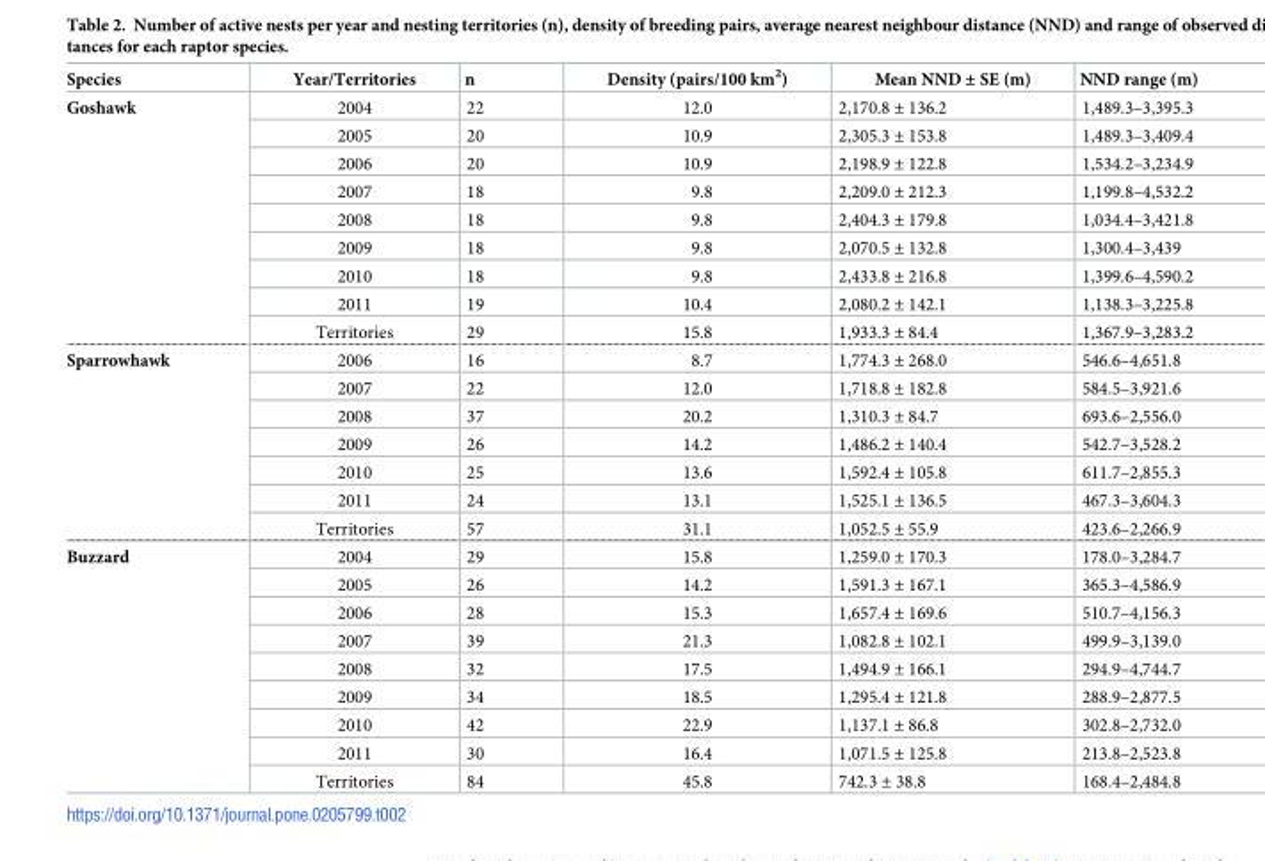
<table><thead><tr><td>Species</td><td>Year/Territories</td><td>n</td><td>Density (pairs/100 km<sup>2</sup>)</td><td>Mean NND ± SE (m)</td><td>NND range (m)</td></tr></thead><tbody><tr><td rowspan="9">Goshawk</td><td>2004</td><td>22</td><td>12.0</td><td>2,170.8 ± 136.2</td><td>1,489.3–3,395.3</td></tr><tr><td>2005</td><td>20</td><td>10.9</td><td>2,305.3 ± 153.8</td><td>1,489.3–3,409.4</td></tr><tr><td>2006</td><td>20</td><td>10.9</td><td>2,198.9 ± 122.8</td><td>1,534.2–3,234.9</td></tr><tr><td>2007</td><td>18</td><td>9.8</td><td>2,209.0 ± 212.3</td><td>1,199.8–4,532.2</td></tr><tr><td>2008</td><td>18</td><td>9.8</td><td>2,404.3 ± 179.8</td><td>1,034.4–3,421.8</td></tr><tr><td>2009</td><td>18</td><td>9.8</td><td>2,070.5 ± 132.8</td><td>1,300.4–3,439</td></tr><tr><td>2010</td><td>18</td><td>9.8</td><td>2,433.8 ± 216.8</td><td>1,399.6–4,590.2</td></tr><tr><td>2011</td><td>19</td><td>10.4</td><td>2,080.2 ± 142.1</td><td>1,138.3–3,225.8</td></tr><tr><td>Territories</td><td>29</td><td>15.8</td><td>1,933.3 ± 84.4</td><td>1,367.9–3,283.2</td></tr><tr><td rowspan="7">Sparrowhawk</td><td>2006</td><td>16</td><td>8.7</td><td>1,774.3 ± 268.0</td><td>546.6–4,651.8</td></tr><tr><td>2007</td><td>22</td><td>12.0</td><td>1,718.8 ± 182.8</td><td>584.5–3,921.6</td></tr><tr><td>2008</td><td>37</td><td>20.2</td><td>1,310.3 ± 84.7</td><td>693.6–2,556.0</td></tr><tr><td>2009</td><td>26</td><td>14.2</td><td>1,486.2 ± 140.4</td><td>542.7–3,528.2</td></tr><tr><td>2010</td><td>25</td><td>13.6</td><td>1,592.4 ± 105.8</td><td>611.7–2,855.3</td></tr><tr><td>2011</td><td>24</td><td>13.1</td><td>1,525.1 ± 136.5</td><td>467.3–3,604.3</td></tr><tr><td>Territories</td><td>57</td><td>31.1</td><td>1,052.5 ± 55.9</td><td>423.6–2,266.9</td></tr><tr><td rowspan="9">Buzzard</td><td>2004</td><td>29</td><td>15.8</td><td>1,259.0 ± 170.3</td><td>178.0–3,284.7</td></tr><tr><td>2005</td><td>26</td><td>14.2</td><td>1,591.3 ± 167.1</td><td>365.3–4,586.9</td></tr><tr><td>2006</td><td>28</td><td>15.3</td><td>1,657.4 ± 169.6</td><td>510.7–4,156.3</td></tr><tr><td>2007</td><td>39</td><td>21.3</td><td>1,082.8 ± 102.1</td><td>499.9–3,139.0</td></tr><tr><td>2008</td><td>32</td><td>17.5</td><td>1,494.9 ± 166.1</td><td>294.9–4,744.7</td></tr><tr><td>2009</td><td>34</td><td>18.5</td><td>1,295.4 ± 121.8</td><td>288.9–2,877.5</td></tr><tr><td>2010</td><td>42</td><td>22.9</td><td>1,137.1 ± 86.8</td><td>302.8–2,732.0</td></tr><tr><td>2011</td><td>30</td><td>16.4</td><td>1,071.5 ± 125.8</td><td>213.8–2,523.8</td></tr><tr><td>Territories</td><td>84</td><td>45.8</td><td>742.3 ± 38.8</td><td>168.4–2,484.8</td></tr></tbody></table>